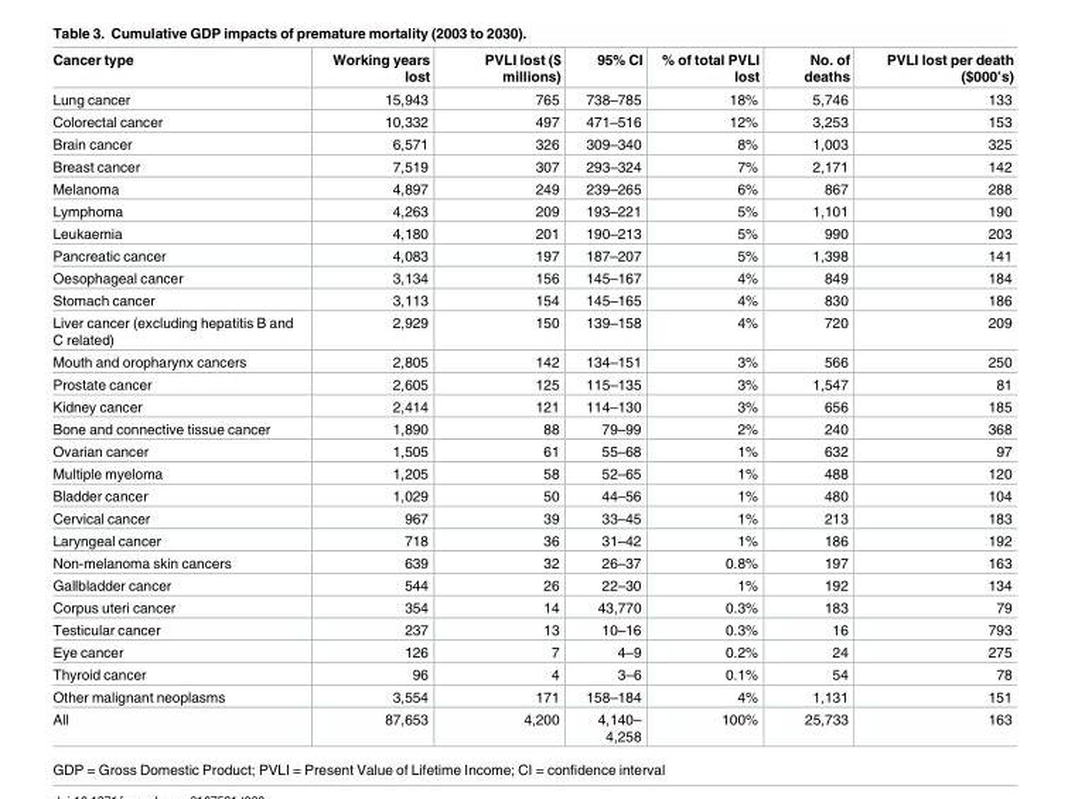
<table><thead><tr><td>Cancer type</td><td>Working years lost</td><td>PVLI lost ($ millions)</td><td>95% CI</td><td>% of total PVLI lost</td><td>No. of deaths</td><td>PVLI lost per death ($000’s)</td></tr></thead><tbody><tr><td>Lung cancer</td><td>15,943</td><td>765</td><td>738–785</td><td>18%</td><td>5,746</td><td>133</td></tr><tr><td>Colorectal cancer</td><td>10,332</td><td>497</td><td>471–516</td><td>12%</td><td>3,253</td><td>153</td></tr><tr><td>Brain cancer</td><td>6,571</td><td>326</td><td>309–340</td><td>8%</td><td>1,003</td><td>325</td></tr><tr><td>Breast cancer</td><td>7,519</td><td>307</td><td>293–324</td><td>7%</td><td>2,171</td><td>142</td></tr><tr><td>Melanoma</td><td>4,897</td><td>249</td><td>239–265</td><td>6%</td><td>867</td><td>288</td></tr><tr><td>Lymphoma</td><td>4,263</td><td>209</td><td>193–221</td><td>5%</td><td>1,101</td><td>190</td></tr><tr><td>Leukaemia</td><td>4,180</td><td>201</td><td>190–213</td><td>5%</td><td>990</td><td>203</td></tr><tr><td>Pancreatic cancer</td><td>4,083</td><td>197</td><td>187–207</td><td>5%</td><td>1,398</td><td>141</td></tr><tr><td>Oesophageal cancer</td><td>3,134</td><td>156</td><td>145–167</td><td>4%</td><td>849</td><td>184</td></tr><tr><td>Stomach cancer</td><td>3,113</td><td>154</td><td>145–165</td><td>4%</td><td>830</td><td>186</td></tr><tr><td>Liver cancer (excluding hepatitis B and C related)</td><td>2,929</td><td>150</td><td>139–158</td><td>4%</td><td>720</td><td>209</td></tr><tr><td>Mouth and oropharynx cancers</td><td>2,805</td><td>142</td><td>134–151</td><td>3%</td><td>566</td><td>250</td></tr><tr><td>Prostate cancer</td><td>2,605</td><td>125</td><td>115–135</td><td>3%</td><td>1,547</td><td>81</td></tr><tr><td>Kidney cancer</td><td>2,414</td><td>121</td><td>114–130</td><td>3%</td><td>656</td><td>185</td></tr><tr><td>Bone and connective tissue cancer</td><td>1,890</td><td>88</td><td>79–99</td><td>2%</td><td>240</td><td>368</td></tr><tr><td>Ovarian cancer</td><td>1,505</td><td>61</td><td>55–68</td><td>1%</td><td>632</td><td>97</td></tr><tr><td>Multiple myeloma</td><td>1,205</td><td>58</td><td>52–65</td><td>1%</td><td>488</td><td>120</td></tr><tr><td>Bladder cancer</td><td>1,029</td><td>50</td><td>44–56</td><td>1%</td><td>480</td><td>104</td></tr><tr><td>Cervical cancer</td><td>967</td><td>39</td><td>33–45</td><td>1%</td><td>213</td><td>183</td></tr><tr><td>Laryngeal cancer</td><td>718</td><td>36</td><td>31–42</td><td>1%</td><td>186</td><td>192</td></tr><tr><td>Non-melanoma skin cancers</td><td>639</td><td>32</td><td>26–37</td><td>0.8%</td><td>197</td><td>163</td></tr><tr><td>Gallbladder cancer</td><td>544</td><td>26</td><td>22–30</td><td>1%</td><td>192</td><td>134</td></tr><tr><td>Corpus uteri cancer</td><td>354</td><td>14</td><td>43,770</td><td>0.3%</td><td>183</td><td>79</td></tr><tr><td>Testicular cancer</td><td>237</td><td>13</td><td>10–16</td><td>0.3%</td><td>16</td><td>793</td></tr><tr><td>Eye cancer</td><td>126</td><td>7</td><td>4–9</td><td>0.2%</td><td>24</td><td>275</td></tr><tr><td>Thyroid cancer</td><td>96</td><td>4</td><td>3–6</td><td>0.1%</td><td>54</td><td>78</td></tr><tr><td>Other malignant neoplasms</td><td>3,554</td><td>171</td><td>158–184</td><td>4%</td><td>1,131</td><td>151</td></tr><tr><td>All</td><td>87,653</td><td>4,200</td><td>4,140– 4,258</td><td>100%</td><td>25,733</td><td>163</td></tr></tbody></table>